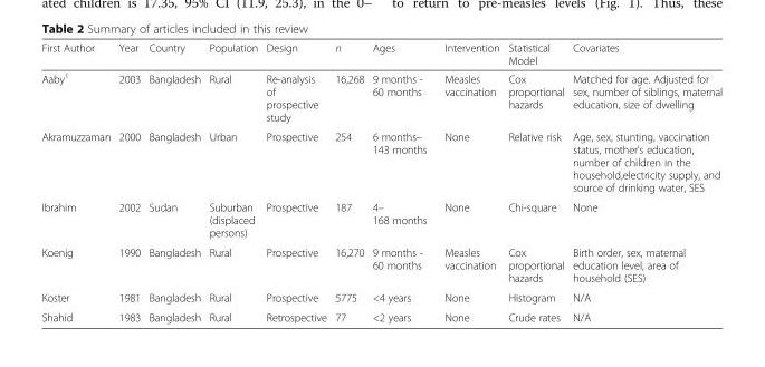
<table><thead><tr><td>First Author</td><td>Year</td><td>Country</td><td>Population</td><td>Design</td><td>n</td><td>Ages</td><td>Intervention</td><td>Statistical Model</td><td>Covariates</td></tr></thead><tbody><tr><td>Aaby<sup>1</sup></td><td>2003</td><td>Bangladesh</td><td>Rural</td><td>Re-analysis of prospective study</td><td>16,268</td><td>9 months - 60 months</td><td>Measles vaccination</td><td>Cox proportional hazards</td><td>Matched for age. Adjusted for sex, number of siblings, maternal education, size of dwelling</td></tr><tr><td>Akramuzzaman</td><td>2000</td><td>Bangladesh</td><td>Urban</td><td>Prospective</td><td>254</td><td>6 months– 143 months</td><td>None</td><td>Relative risk</td><td>Age, sex, stunting, vaccination status, mother’s education, number of children in the household,electricity supply, and source of drinking water, SES</td></tr><tr><td>Ibrahim</td><td>2002</td><td>Sudan</td><td>Suburban (displaced persons)</td><td>Prospective</td><td>187</td><td>4– 168 months</td><td>None</td><td>Chi-square</td><td>None</td></tr><tr><td>Koenig</td><td>1990</td><td>Bangladesh</td><td>Rural</td><td>Prospective</td><td>16,270</td><td>9 months - 60 months</td><td>Measles vaccination</td><td>Cox proportional hazards</td><td>Birth order, sex, maternal education level, area of household (SES)</td></tr><tr><td>Koster</td><td>1981</td><td>Bangladesh</td><td>Rural</td><td>Prospective</td><td>5775</td><td>&lt;4 years</td><td>None</td><td>Histogram</td><td>N/A</td></tr><tr><td>Shahid</td><td>1983</td><td>Bangladesh</td><td>Rural</td><td>Retrospective</td><td>77</td><td>&lt;2 years</td><td>None</td><td>Crude rates</td><td>N/A</td></tr></tbody></table>